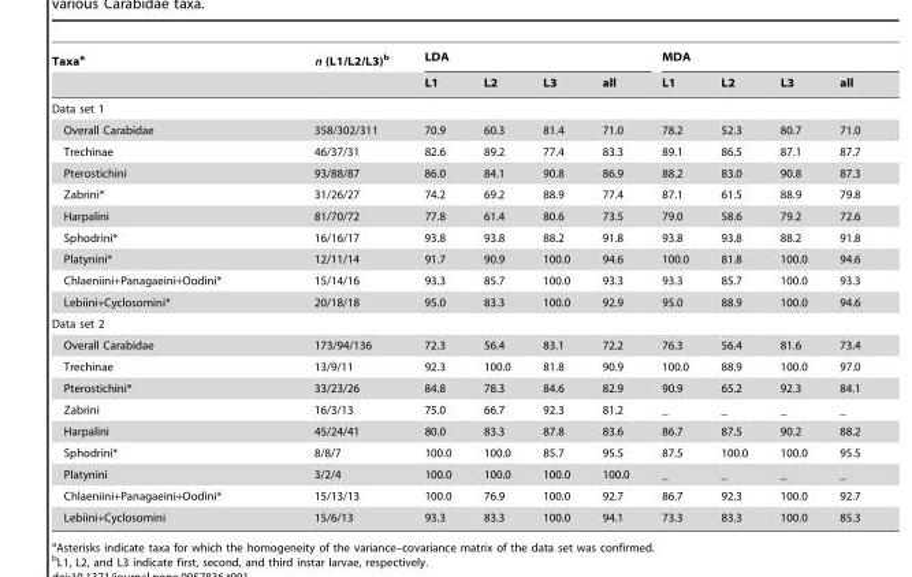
<table><thead><tr><td rowspan="2">Taxa<sup>a</sup></td><td rowspan="2">n (L1/L2/L3)<sup>b</sup></td><td colspan="4">LDA</td><td colspan="4">MDA</td></tr><tr><td>L1</td><td>L2</td><td>L3</td><td>all</td><td>L1</td><td>L2</td><td>L3</td><td>all</td></tr></thead><tbody><tr><td colspan="10">Data set 1</td></tr><tr><td>Overall Carabidae</td><td>358/302/311</td><td>70.9</td><td>60.3</td><td>81.4</td><td>71.0</td><td>78.2</td><td>52.3</td><td>80.7</td><td>71.0</td></tr><tr><td>Trechinae</td><td>46/37/31</td><td>82.6</td><td>89.2</td><td>77.4</td><td>83.3</td><td>89.1</td><td>86.5</td><td>87.1</td><td>87.7</td></tr><tr><td>Pterostichini</td><td>93/88/87</td><td>86.0</td><td>84.1</td><td>90.8</td><td>86.9</td><td>88.2</td><td>83.0</td><td>90.8</td><td>87.3</td></tr><tr><td>Zabrini*</td><td>31/26/27</td><td>74.2</td><td>69.2</td><td>88.9</td><td>77.4</td><td>87.1</td><td>61.5</td><td>88.9</td><td>79.8</td></tr><tr><td>Harpalini</td><td>81/70/72</td><td>77.8</td><td>61.4</td><td>80.6</td><td>73.5</td><td>79.0</td><td>58.6</td><td>79.2</td><td>72.6</td></tr><tr><td>Sphodrini*</td><td>16/16/17</td><td>93.8</td><td>93.8</td><td>88.2</td><td>91.8</td><td>93.8</td><td>93.8</td><td>88.2</td><td>91.8</td></tr><tr><td>Platynini*</td><td>12/11/14</td><td>91.7</td><td>90.9</td><td>100.0</td><td>94.6</td><td>100.0</td><td>81.8</td><td>100.0</td><td>94.6</td></tr><tr><td>Chlaeniini+Panagaeini+Oodini*</td><td>15/14/16</td><td>93.3</td><td>85.7</td><td>100.0</td><td>93.3</td><td>93.3</td><td>85.7</td><td>100.0</td><td>93.3</td></tr><tr><td>Lebiini+Cyclosomini*</td><td>20/18/18</td><td>95.0</td><td>83.3</td><td>100.0</td><td>92.9</td><td>95.0</td><td>88.9</td><td>100.0</td><td>94.6</td></tr><tr><td colspan="10">Data set 2</td></tr><tr><td>Overall Carabidae</td><td>173/94/136</td><td>72.3</td><td>56.4</td><td>83.1</td><td>72.2</td><td>76.3</td><td>56.4</td><td>81.6</td><td>73.4</td></tr><tr><td>Trechinae</td><td>13/9/11</td><td>92.3</td><td>100.0</td><td>81.8</td><td>90.9</td><td>100.0</td><td>88.9</td><td>100.0</td><td>97.0</td></tr><tr><td>Pterostichini*</td><td>33/23/26</td><td>84.8</td><td>78.3</td><td>84.6</td><td>82.9</td><td>90.9</td><td>65.2</td><td>92.3</td><td>84.1</td></tr><tr><td>Zabrini</td><td>16/3/13</td><td>75.0</td><td>66.7</td><td>92.3</td><td>81.2</td><td>―</td><td>―</td><td>―</td><td>―</td></tr><tr><td>Harpalini</td><td>45/24/41</td><td>80.0</td><td>83.3</td><td>87.8</td><td>83.6</td><td>86.7</td><td>87.5</td><td>90.2</td><td>88.2</td></tr><tr><td>Sphodrini*</td><td>8/8/7</td><td>100.0</td><td>100.0</td><td>85.7</td><td>95.5</td><td>87.5</td><td>100.0</td><td>100.0</td><td>95.5</td></tr><tr><td>Platynini</td><td>3/2/4</td><td>100.0</td><td>100.0</td><td>100.0</td><td>100.0</td><td>―</td><td>―</td><td>―</td><td>―</td></tr><tr><td>Chlaeniini+Panagaeini+Oodini*</td><td>15/13/13</td><td>100.0</td><td>76.9</td><td>100.0</td><td>92.7</td><td>86.7</td><td>92.3</td><td>100.0</td><td>92.7</td></tr><tr><td>Lebiini+Cyclosomini</td><td>15/6/13</td><td>93.3</td><td>83.3</td><td>100.0</td><td>94.1</td><td>73.3</td><td>83.3</td><td>100.0</td><td>85.3</td></tr></tbody></table>